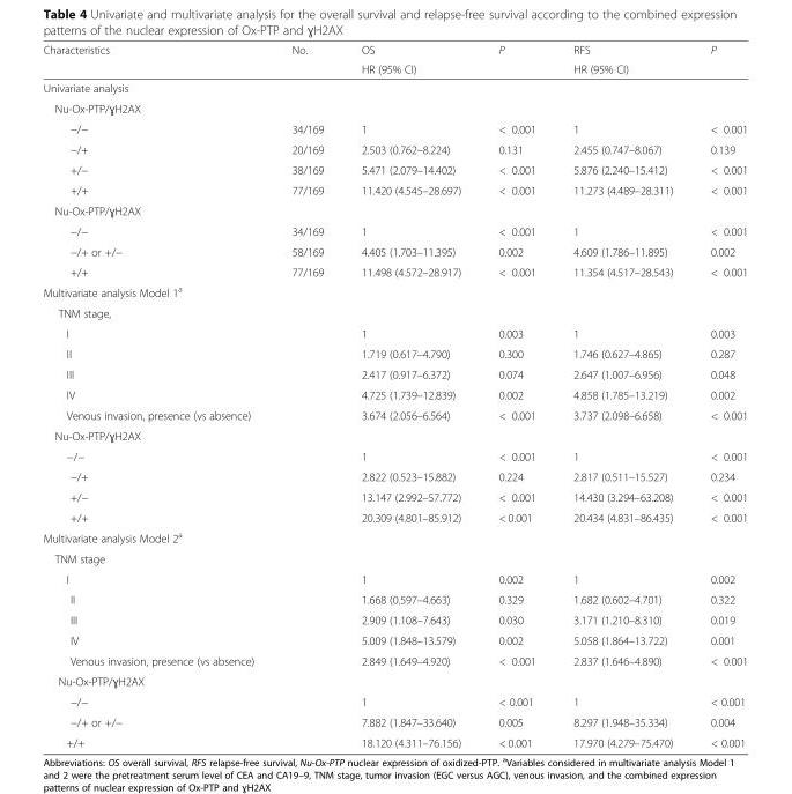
<table><thead><tr><td rowspan="2">Characteristics</td><td rowspan="2">No.</td><td rowspan="2">OS HR (95% CI)</td><td rowspan="2">P</td><td rowspan="2">RFS HR (95% CI)</td><td rowspan="2">P</td></tr><tr></tr></thead><tbody><tr><td colspan="6">Univariate analysis</td></tr><tr><td colspan="6">Nu-Ox-PTP/ɣH2AX</td></tr><tr><td>−/−</td><td>34/169</td><td>1</td><td>&lt; 0.001</td><td>1</td><td>&lt; 0.001</td></tr><tr><td>−/+</td><td>20/169</td><td>2.503 (0.762–8.224)</td><td>0.131</td><td>2.455 (0.747–8.067)</td><td>0.139</td></tr><tr><td>+/−</td><td>38/169</td><td>5.471 (2.079–14.402)</td><td>&lt; 0.001</td><td>5.876 (2.240–15.412)</td><td>&lt; 0.001</td></tr><tr><td>+/+</td><td>77/169</td><td>11.420 (4.545–28.697)</td><td>&lt; 0.001</td><td>11.273 (4.489–28.311)</td><td>&lt; 0.001</td></tr><tr><td colspan="6">Nu-Ox-PTP/ɣH2AX</td></tr><tr><td>−/−</td><td>34/169</td><td>1</td><td>&lt; 0.001</td><td>1</td><td>&lt; 0.001</td></tr><tr><td>−/+ or +/−</td><td>58/169</td><td>4.405 (1.703–11.395)</td><td>0.002</td><td>4.609 (1.786–11.895)</td><td>0.002</td></tr><tr><td>+/+</td><td>77/169</td><td>11.498 (4.572–28.917)</td><td>&lt; 0.001</td><td>11.354 (4.517–28.543)</td><td>&lt; 0.001</td></tr><tr><td colspan="6">Multivariate analysis Model 1<sup>a</sup></td></tr><tr><td colspan="6">TNM stage,</td></tr><tr><td>I</td><td></td><td>1</td><td>0.003</td><td>1</td><td>0.003</td></tr><tr><td>II</td><td></td><td>1.719 (0.617–4.790)</td><td>0.300</td><td>1.746 (0.627–4.865)</td><td>0.287</td></tr><tr><td>III</td><td></td><td>2.417 (0.917–6.372)</td><td>0.074</td><td>2.647 (1.007–6.956)</td><td>0.048</td></tr><tr><td>IV</td><td></td><td>4.725 (1.739–12.839)</td><td>0.002</td><td>4.858 (1.785–13.219)</td><td>0.002</td></tr><tr><td>Venous invasion, presence (vs absence)</td><td></td><td>3.674 (2.056–6.564)</td><td>&lt; 0.001</td><td>3.737 (2.098–6.658)</td><td>&lt; 0.001</td></tr><tr><td colspan="6">Nu-Ox-PTP/ɣH2AX</td></tr><tr><td>−/−</td><td></td><td>1</td><td>&lt; 0.001</td><td>1</td><td>&lt; 0.001</td></tr><tr><td>−/+</td><td></td><td>2.822 (0.523–15.882)</td><td>0.224</td><td>2.817 (0.511–15.527)</td><td>0.234</td></tr><tr><td>+/−</td><td></td><td>13.147 (2.992–57.772)</td><td>&lt; 0.001</td><td>14.430 (3.294–63.208)</td><td>&lt; 0.001</td></tr><tr><td>+/+</td><td></td><td>20.309 (4.801–85.912)</td><td>&lt; 0.001</td><td>20.434 (4.831–86.435)</td><td>&lt; 0.001</td></tr><tr><td colspan="6">Multivariate analysis Model 2<sup>a</sup></td></tr><tr><td colspan="6">TNM stage</td></tr><tr><td>I</td><td></td><td>1</td><td>0.002</td><td>1</td><td>0.002</td></tr><tr><td>II</td><td></td><td>1.668 (0.597–4.663)</td><td>0.329</td><td>1.682 (0.602–4.701)</td><td>0.322</td></tr><tr><td>III</td><td></td><td>2.909 (1.108–7.643)</td><td>0.030</td><td>3.171 (1.210–8.310)</td><td>0.019</td></tr><tr><td>IV</td><td></td><td>5.009 (1.848–13.579)</td><td>0.002</td><td>5.058 (1.864–13.722)</td><td>0.001</td></tr><tr><td>Venous invasion, presence (vs absence)</td><td></td><td>2.849 (1.649–4.920)</td><td>&lt; 0.001</td><td>2.837 (1.646–4.890)</td><td>&lt; 0.001</td></tr><tr><td colspan="6">Nu-Ox-PTP/ɣH2AX</td></tr><tr><td>−/−</td><td></td><td>1</td><td>&lt; 0.001</td><td>1</td><td>&lt; 0.001</td></tr><tr><td>−/+ or +/−</td><td></td><td>7.882 (1.847–33.640)</td><td>0.005</td><td>8.297 (1.948–35.334)</td><td>0.004</td></tr><tr><td>+/+</td><td></td><td>18.120 (4.311–76.156)</td><td>&lt; 0.001</td><td>17.970 (4.279–75.470)</td><td>&lt; 0.001</td></tr></tbody></table>